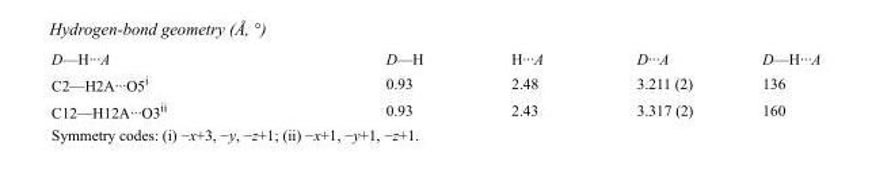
<table><tbody><tr><td>D—H···A</td><td>D—H</td><td>H···A</td><td>D···A</td><td>D—H···A</td></tr><tr><td>C2—H2A···O5<sup>i</sup></td><td>0.93</td><td>2.48</td><td>3.211 (2)</td><td>136</td></tr><tr><td>C12—H12A···O3<sup>ii</sup></td><td>0.93</td><td>2.43</td><td>3.317 (2)</td><td>160</td></tr></tbody></table>